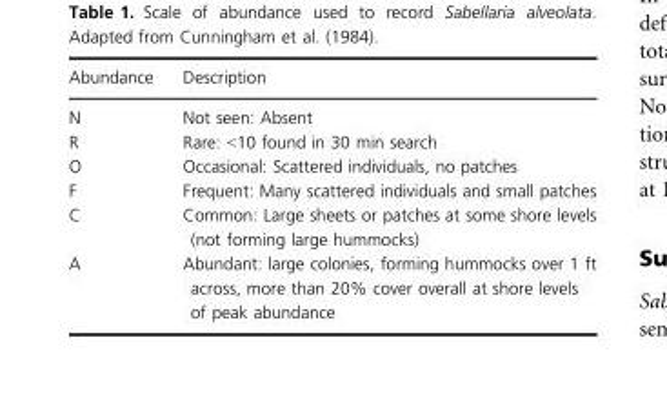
<table><thead><tr><td>Abundance</td><td>Description</td></tr></thead><tbody><tr><td>N</td><td>Not seen: Absent</td></tr><tr><td>R</td><td>Rare: &lt;10 found in 30 min search</td></tr><tr><td>O</td><td>Occasional: Scattered individuals, no patches</td></tr><tr><td>F</td><td>Frequent: Many scattered individuals and small patches</td></tr><tr><td>C</td><td>Common: Large sheets or patches at some shore levels (not forming large hummocks)</td></tr><tr><td>A</td><td>Abundant: large colonies, forming hummocks over 1 ft across, more than 20% cover overall at shore levels of peak abundance</td></tr></tbody></table>